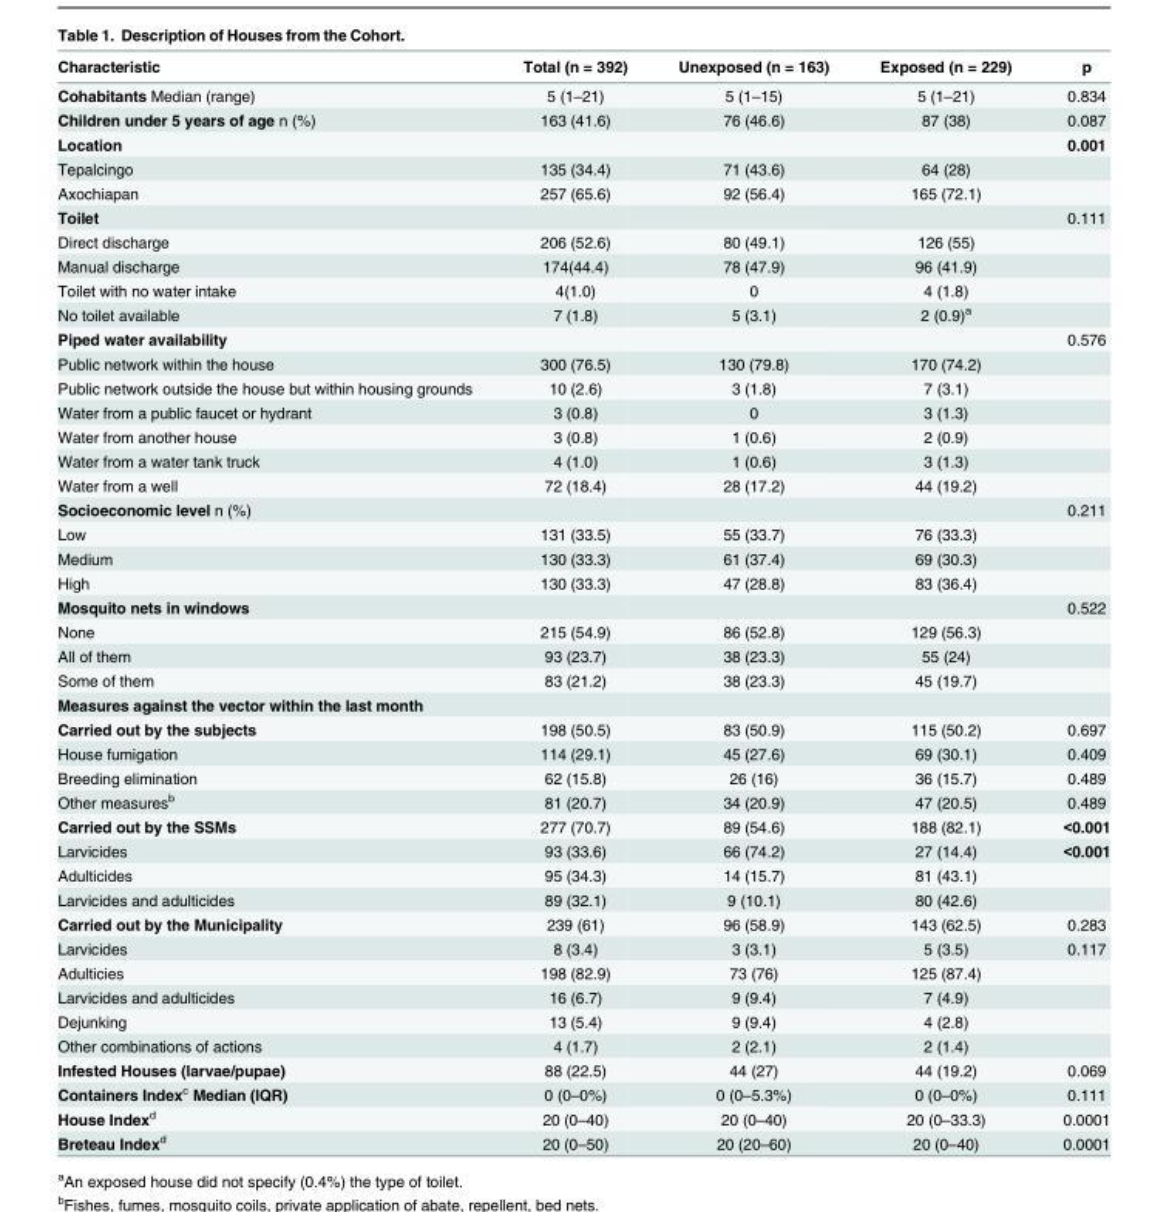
<table><thead><tr><td>Characteristic</td><td>Total (n = 392)</td><td>Unexposed (n = 163)</td><td>Exposed (n = 229)</td><td>p</td></tr></thead><tbody><tr><td>Cohabitants Median (range)</td><td>5 (1–21)</td><td>5 (1–15)</td><td>5 (1–21)</td><td>0.834</td></tr><tr><td>Children under 5 years of age n (%)</td><td>163 (41.6)</td><td>76 (46.6)</td><td>87 (38)</td><td>0.087</td></tr><tr><td>Location</td><td></td><td></td><td></td><td>0.001</td></tr><tr><td>Tepalcingo</td><td>135 (34.4)</td><td>71 (43.6)</td><td>64 (28)</td><td></td></tr><tr><td>Axochiapan</td><td>257 (65.6)</td><td>92 (56.4)</td><td>165 (72.1)</td><td></td></tr><tr><td>Toilet</td><td></td><td></td><td></td><td>0.111</td></tr><tr><td>Direct discharge</td><td>206 (52.6)</td><td>80 (49.1)</td><td>126 (55)</td><td></td></tr><tr><td>Manual discharge</td><td>174(44.4)</td><td>78 (47.9)</td><td>96 (41.9)</td><td></td></tr><tr><td>Toilet with no water intake</td><td>4(1.0)</td><td>0</td><td>4 (1.8)</td><td></td></tr><tr><td>No toilet available</td><td>7 (1.8)</td><td>5 (3.1)</td><td>2 (0.9)<sup>a</sup></td><td></td></tr><tr><td>Piped water availability</td><td></td><td></td><td></td><td>0.576</td></tr><tr><td>Public network within the house</td><td>300 (76.5)</td><td>130 (79.8)</td><td>170 (74.2)</td><td></td></tr><tr><td>Public network outside the house but within housing grounds</td><td>10 (2.6)</td><td>3 (1.8)</td><td>7 (3.1)</td><td></td></tr><tr><td>Water from a public faucet or hydrant</td><td>3 (0.8)</td><td>0</td><td>3 (1.3)</td><td></td></tr><tr><td>Water from another house</td><td>3 (0.8)</td><td>1 (0.6)</td><td>2 (0.9)</td><td></td></tr><tr><td>Water from a water tank truck</td><td>4 (1.0)</td><td>1 (0.6)</td><td>3 (1.3)</td><td></td></tr><tr><td>Water from a well</td><td>72 (18.4)</td><td>28 (17.2)</td><td>44 (19.2)</td><td></td></tr><tr><td>Socioeconomic level n (%)</td><td></td><td></td><td></td><td>0.211</td></tr><tr><td>Low</td><td>131 (33.5)</td><td>55 (33.7)</td><td>76 (33.3)</td><td></td></tr><tr><td>Medium</td><td>130 (33.3)</td><td>61 (37.4)</td><td>69 (30.3)</td><td></td></tr><tr><td>High</td><td>130 (33.3)</td><td>47 (28.8)</td><td>83 (36.4)</td><td></td></tr><tr><td>Mosquito nets in windows</td><td></td><td></td><td></td><td>0.522</td></tr><tr><td>None</td><td>215 (54.9)</td><td>86 (52.8)</td><td>129 (56.3)</td><td></td></tr><tr><td>All of them</td><td>93 (23.7)</td><td>38 (23.3)</td><td>55 (24)</td><td></td></tr><tr><td>Some of them</td><td>83 (21.2)</td><td>38 (23.3)</td><td>45 (19.7)</td><td></td></tr><tr><td colspan="5">Measures against the vector within the last month</td></tr><tr><td>Carried out by the subjects</td><td>198 (50.5)</td><td>83 (50.9)</td><td>115 (50.2)</td><td>0.697</td></tr><tr><td>House fumigation</td><td>114 (29.1)</td><td>45 (27.6)</td><td>69 (30.1)</td><td>0.409</td></tr><tr><td>Breeding elimination</td><td>62 (15.8)</td><td>26 (16)</td><td>36 (15.7)</td><td>0.489</td></tr><tr><td>Other measures<sup>b</sup></td><td>81 (20.7)</td><td>34 (20.9)</td><td>47 (20.5)</td><td>0.489</td></tr><tr><td>Carried out by the SSMs</td><td>277 (70.7)</td><td>89 (54.6)</td><td>188 (82.1)</td><td>&lt;0.001</td></tr><tr><td>Larvicides</td><td>93 (33.6)</td><td>66 (74.2)</td><td>27 (14.4)</td><td>&lt;0.001</td></tr><tr><td>Adulticides</td><td>95 (34.3)</td><td>14 (15.7)</td><td>81 (43.1)</td><td></td></tr><tr><td>Larvicides and adulticides</td><td>89 (32.1)</td><td>9 (10.1)</td><td>80 (42.6)</td><td></td></tr><tr><td>Carried out by the Municipality</td><td>239 (61)</td><td>96 (58.9)</td><td>143 (62.5)</td><td>0.283</td></tr><tr><td>Larvicides</td><td>8 (3.4)</td><td>3 (3.1)</td><td>5 (3.5)</td><td>0.117</td></tr><tr><td>Adulticies</td><td>198 (82.9)</td><td>73 (76)</td><td>125 (87.4)</td><td></td></tr><tr><td>Larvicides and adulticides</td><td>16 (6.7)</td><td>9 (9.4)</td><td>7 (4.9)</td><td></td></tr><tr><td>Dejunking</td><td>13 (5.4)</td><td>9 (9.4)</td><td>4 (2.8)</td><td></td></tr><tr><td>Other combinations of actions</td><td>4 (1.7)</td><td>2 (2.1)</td><td>2 (1.4)</td><td></td></tr><tr><td>Infested Houses (larvae/pupae)</td><td>88 (22.5)</td><td>44 (27)</td><td>44 (19.2)</td><td>0.069</td></tr><tr><td>Containers Index<sup>c</sup> Median (IQR)</td><td>0 (0–0%)</td><td>0 (0–5.3%)</td><td>0 (0–0%)</td><td>0.111</td></tr><tr><td>House Index<sup>d</sup></td><td>20 (0–40)</td><td>20 (0–40)</td><td>20 (0–33.3)</td><td>0.0001</td></tr><tr><td>Breteau Index<sup>d</sup></td><td>20 (0–50)</td><td>20 (20–60)</td><td>20 (0–40)</td><td>0.0001</td></tr></tbody></table>